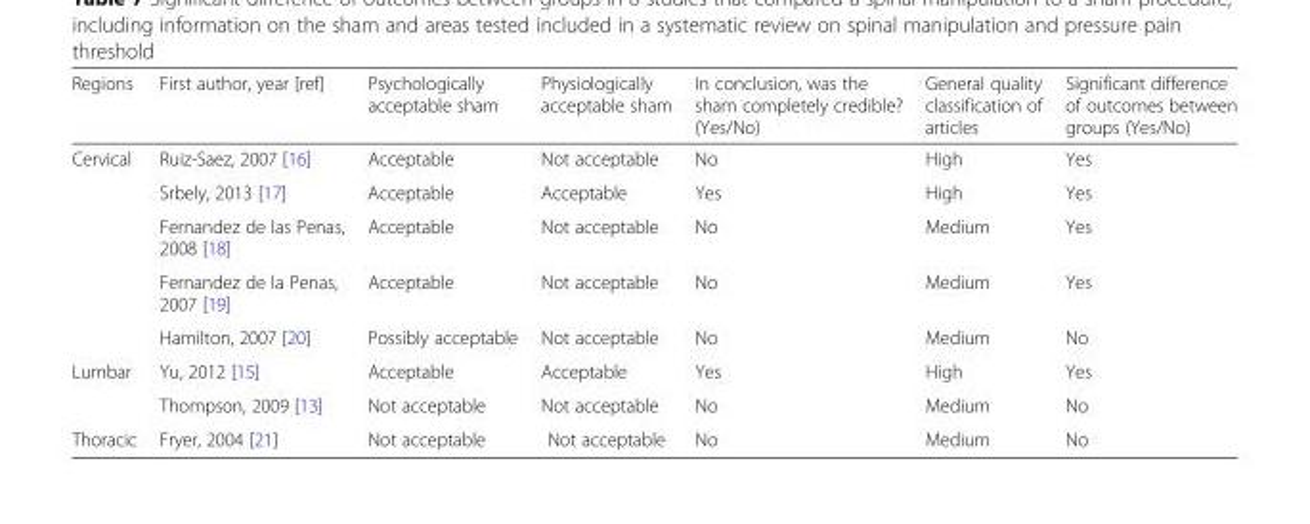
<table><thead><tr><td>Regions</td><td>First author, year [ref]</td><td>Psychologically acceptable sham</td><td>Physiologically acceptable sham</td><td>In conclusion, was the sham completely credible? (Yes/No)</td><td>General quality classification of articles</td><td>Significant difference of outcomes between groups (Yes/No)</td></tr></thead><tbody><tr><td rowspan="5">Cervical</td><td>Ruiz-Saez, 2007 [16]</td><td>Acceptable</td><td>Not acceptable</td><td>No</td><td>High</td><td>Yes</td></tr><tr><td>Srbely, 2013 [17]</td><td>Acceptable</td><td>Acceptable</td><td>Yes</td><td>High</td><td>Yes</td></tr><tr><td>Fernandez de las Penas, 2008 [18]</td><td>Acceptable</td><td>Not acceptable</td><td>No</td><td>Medium</td><td>Yes</td></tr><tr><td>Fernandez de la Penas, 2007 [19]</td><td>Acceptable</td><td>Not acceptable</td><td>No</td><td>Medium</td><td>Yes</td></tr><tr><td>Hamilton, 2007 [20]</td><td>Possibly acceptable</td><td>Not acceptable</td><td>No</td><td>Medium</td><td>No</td></tr><tr><td rowspan="2">Lumbar</td><td>Yu, 2012 [15]</td><td>Acceptable</td><td>Acceptable</td><td>Yes</td><td>High</td><td>Yes</td></tr><tr><td>Thompson, 2009 [13]</td><td>Not acceptable</td><td>Not acceptable</td><td>No</td><td>Medium</td><td>No</td></tr><tr><td>Thoracic</td><td>Fryer, 2004 [21]</td><td>Not acceptable</td><td>Not acceptable</td><td>No</td><td>Medium</td><td>No</td></tr></tbody></table>